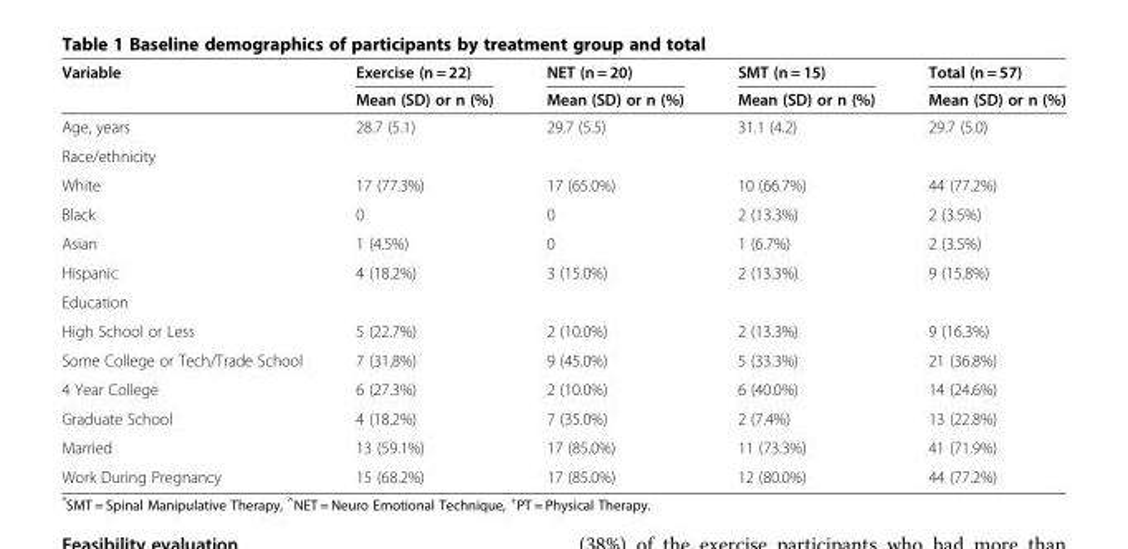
<table><thead><tr><td rowspan="2">Variable</td><td rowspan="2">Exercise (n = 22) Mean (SD) or n (%)</td><td rowspan="2">NET (n = 20) Mean (SD) or n (%)</td><td rowspan="2">SMT (n = 15) Mean (SD) or n (%)</td><td rowspan="2">Total (n = 57) Mean (SD) or n (%)</td></tr><tr></tr></thead><tbody><tr><td>Age, years</td><td>28.7 (5.1)</td><td>29.7 (5.5)</td><td>31.1 (4.2)</td><td>29.7 (5.0)</td></tr><tr><td colspan="5">Race/ethnicity</td></tr><tr><td>White</td><td>17 (77.3%)</td><td>17 (65.0%)</td><td>10 (66.7%)</td><td>44 (77.2%)</td></tr><tr><td>Black</td><td>0</td><td>0</td><td>2 (13.3%)</td><td>2 (3.5%)</td></tr><tr><td>Asian</td><td>1 (4.5%)</td><td>0</td><td>1 (6.7%)</td><td>2 (3.5%)</td></tr><tr><td>Hispanic</td><td>4 (18.2%)</td><td>3 (15.0%)</td><td>2 (13.3%)</td><td>9 (15.8%)</td></tr><tr><td colspan="5">Education</td></tr><tr><td>High School or Less</td><td>5 (22.7%)</td><td>2 (10.0%)</td><td>2 (13.3%)</td><td>9 (16.3%)</td></tr><tr><td>Some College or Tech/Trade School</td><td>7 (31.8%)</td><td>9 (45.0%)</td><td>5 (33.3%)</td><td>21 (36.8%)</td></tr><tr><td>4 Year College</td><td>6 (27.3%)</td><td>2 (10.0%)</td><td>6 (40.0%)</td><td>14 (24.6%)</td></tr><tr><td>Graduate School</td><td>4 (18.2%)</td><td>7 (35.0%)</td><td>2 (7.4%)</td><td>13 (22.8%)</td></tr><tr><td>Married</td><td>13 (59.1%)</td><td>17 (85.0%)</td><td>11 (73.3%)</td><td>41 (71.9%)</td></tr><tr><td>Work During Pregnancy</td><td>15 (68.2%)</td><td>17 (85.0%)</td><td>12 (80.0%)</td><td>44 (77.2%)</td></tr></tbody></table>